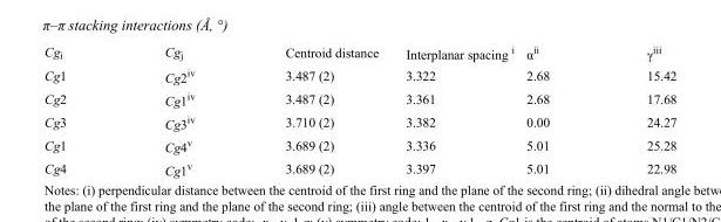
<table><tbody><tr><td>Cg<sub>i</sub></td><td>Cg<sub>j</sub></td><td>Centroid distance</td><td>Interplanar spacing <sup>i</sup></td><td>α<sup>ii</sup></td><td>γ<sup>iii</sup></td></tr><tr><td>Cg1</td><td>Cg2<sup>iv</sup></td><td>3.487 (2)</td><td>3.322</td><td>2.68</td><td>15.42</td></tr><tr><td>Cg2</td><td>Cg1<sup>iv</sup></td><td>3.487 (2)</td><td>3.361</td><td>2.68</td><td>17.68</td></tr><tr><td>Cg3</td><td>Cg3<sup>iv</sup></td><td>3.710 (2)</td><td>3.382</td><td>0.00</td><td>24.27</td></tr><tr><td>Cg1</td><td>Cg4<sup>v</sup></td><td>3.689 (2)</td><td>3.336</td><td>5.01</td><td>25.28</td></tr><tr><td>Cg4</td><td>Cg1<sup>v</sup></td><td>3.689 (2)</td><td>3.397</td><td>5.01</td><td>22.98</td></tr></tbody></table>